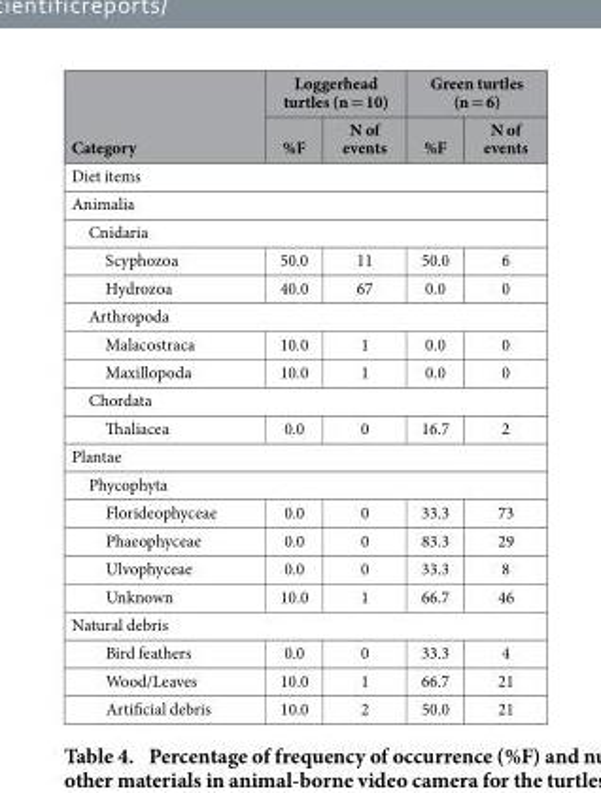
<table><thead><tr><td rowspan="2">Category</td><td colspan="2">Loggerhead turtles (n = 10)</td><td colspan="2">Green turtles (n = 6)</td></tr><tr><td>%F</td><td>N of events</td><td>%F</td><td>N of events</td></tr></thead><tbody><tr><td colspan="5">Diet items</td></tr><tr><td colspan="5">Animalia</td></tr><tr><td colspan="5">Cnidaria</td></tr><tr><td>Scyphozoa</td><td>50.0</td><td>11</td><td>50.0</td><td>6</td></tr><tr><td>Hydrozoa</td><td>40.0</td><td>67</td><td>0.0</td><td>0</td></tr><tr><td colspan="5">Arthropoda</td></tr><tr><td>Malacostraca</td><td>10.0</td><td>1</td><td>0.0</td><td>0</td></tr><tr><td>Maxillopoda</td><td>10.0</td><td>1</td><td>0.0</td><td>0</td></tr><tr><td colspan="5">Chordata</td></tr><tr><td>Thaliacea</td><td>0.0</td><td>0</td><td>16.7</td><td>2</td></tr><tr><td colspan="5">Plantae</td></tr><tr><td colspan="5">Phycophyta</td></tr><tr><td>Florideophyceae</td><td>0.0</td><td>0</td><td>33.3</td><td>73</td></tr><tr><td>Phaeophyceae</td><td>0.0</td><td>0</td><td>83.3</td><td>29</td></tr><tr><td>Ulvophyceae</td><td>0.0</td><td>0</td><td>33.3</td><td>8</td></tr><tr><td>Unknown</td><td>10.0</td><td>1</td><td>66.7</td><td>46</td></tr><tr><td colspan="5">Natural debris</td></tr><tr><td>Bird feathers</td><td>0.0</td><td>0</td><td>33.3</td><td>4</td></tr><tr><td>Wood/Leaves</td><td>10.0</td><td>1</td><td>66.7</td><td>21</td></tr><tr><td>Artificial debris</td><td>10.0</td><td>2</td><td>50.0</td><td>21</td></tr></tbody></table>